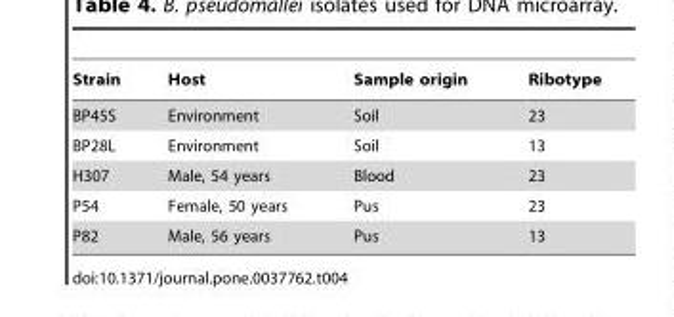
<table><thead><tr><td>Strain</td><td>Host</td><td>Sample origin</td><td>Ribotype</td></tr></thead><tbody><tr><td>BP45S</td><td>Environment</td><td>Soil</td><td>23</td></tr><tr><td>BP28L</td><td>Environment</td><td>Soil</td><td>13</td></tr><tr><td>H307</td><td>Male, 54 years</td><td>Blood</td><td>23</td></tr><tr><td>P54</td><td>Female, 50 years</td><td>Pus</td><td>23</td></tr><tr><td>P82</td><td>Male, 56 years</td><td>Pus</td><td>13</td></tr></tbody></table>